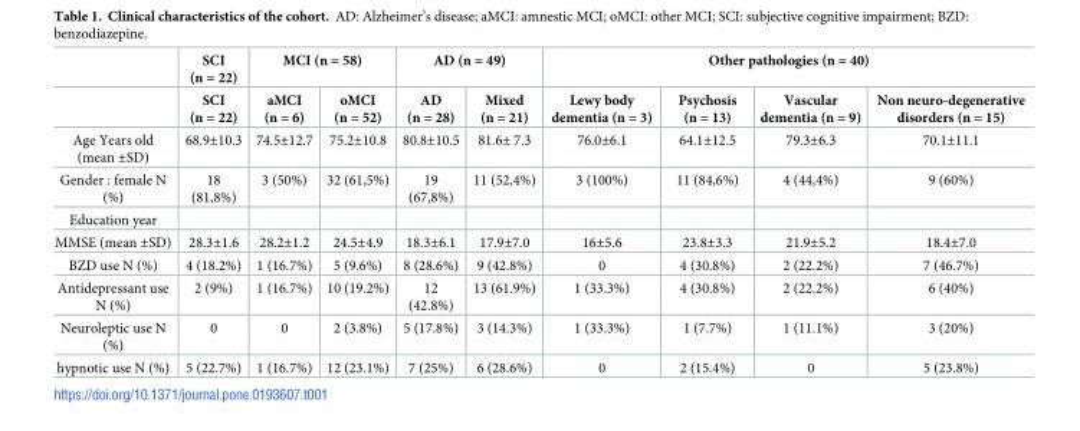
<table><thead><tr><td rowspan="2"></td><td rowspan="2">SCI (n = 22) SCI (n = 22)</td><td colspan="2">MCI (n = 58)</td><td colspan="2">AD (n = 49)</td><td colspan="4">Other pathologies (n = 40)</td></tr><tr><td>aMCI (n = 6)</td><td>oMCI (n = 52)</td><td>AD (n = 28)</td><td>Mixed (n = 21)</td><td>Lewy body dementia (n = 3)</td><td>Psychosis (n = 13)</td><td>Vascular dementia (n = 9)</td><td>Non neuro-degenerative disorders (n = 15)</td></tr></thead><tbody><tr><td>Age Years old (mean ±SD)</td><td>68.9±10.3</td><td>74.5±12.7</td><td>75.2±10.8</td><td>80.8±10.5</td><td>81.6± 7.3</td><td>76.0±6.1</td><td>64.1±12.5</td><td>79.3±6.3</td><td>70.1±11.1</td></tr><tr><td>Gender : female N (%)</td><td>18 (81,8%)</td><td>3 (50%)</td><td>32 (61,5%)</td><td>19 (67,8%)</td><td>11 (52,4%)</td><td>3 (100%)</td><td>11 (84,6%)</td><td>4 (44,4%)</td><td>9 (60%)</td></tr><tr><td colspan="10">Education year</td></tr><tr><td>MMSE (mean ±SD)</td><td>28.3±1.6</td><td>28.2±1.2</td><td>24.5±4.9</td><td>18.3±6.1</td><td>17.9±7.0</td><td>16±5.6</td><td>23.8±3.3</td><td>21.9±5.2</td><td>18.4±7.0</td></tr><tr><td>BZD use N (%)</td><td>4 (18.2%)</td><td>1 (16.7%)</td><td>5 (9.6%)</td><td>8 (28.6%)</td><td>9 (42.8%)</td><td>0</td><td>4 (30.8%)</td><td>2 (22.2%)</td><td>7 (46.7%)</td></tr><tr><td>Antidepressant use N (%)</td><td>2 (9%)</td><td>1 (16.7%)</td><td>10 (19.2%)</td><td>12 (42.8%)</td><td>13 (61.9%)</td><td>1 (33.3%)</td><td>4 (30.8%)</td><td>2 (22.2%)</td><td>6 (40%)</td></tr><tr><td>Neuroleptic use N (%)</td><td>0</td><td>0</td><td>2 (3.8%)</td><td>5 (17.8%)</td><td>3 (14.3%)</td><td>1 (33.3%)</td><td>1 (7.7%)</td><td>1 (11.1%)</td><td>3 (20%)</td></tr><tr><td>hypnotic use N (%)</td><td>5 (22.7%)</td><td>1 (16.7%)</td><td>12 (23.1%)</td><td>7 (25%)</td><td>6 (28.6%)</td><td>0</td><td>2 (15.4%)</td><td>0</td><td>5 (23.8%)</td></tr></tbody></table>